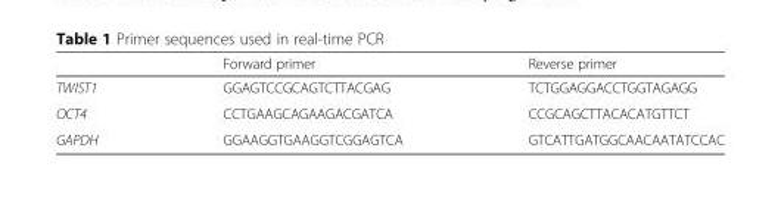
<table><thead><tr><td></td><td>Forward primer</td><td>Reverse primer</td></tr></thead><tbody><tr><td>TWIST1</td><td>GGAGTCCGCAGTCTTACGAG</td><td>TCTGGAGGACCTGGTAGAGG</td></tr><tr><td>OCT4</td><td>CCTGAAGCAGAAGACGATCA</td><td>CCGCAGCTTACACATGTTCT</td></tr><tr><td>GAPDH</td><td>GGAAGGTGAAGGTCGGAGTCA</td><td>GTCATTGATGGCAACAATATCCAC</td></tr></tbody></table>